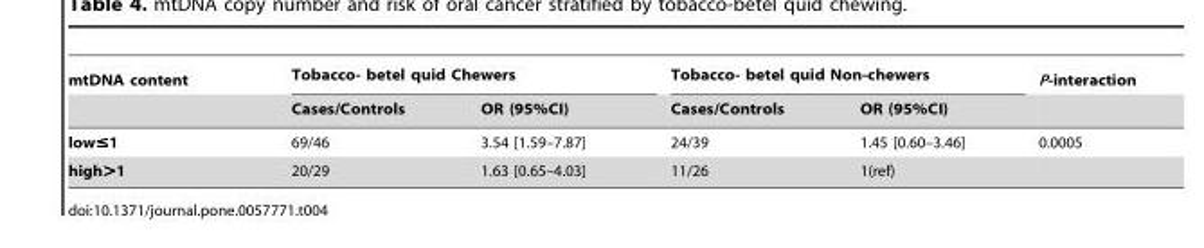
<table><thead><tr><td rowspan="2">mtDNA content</td><td colspan="2">Tobacco- betel quid Chewers</td><td colspan="2">Tobacco- betel quid Non-chewers</td><td rowspan="2">P-interaction</td></tr><tr><td>Cases/Controls</td><td>OR (95%CI)</td><td>Cases/Controls</td><td>OR (95%CI)</td></tr></thead><tbody><tr><td>low≤1</td><td>69/46</td><td>3.54 [1.59–7.87]</td><td>24/39</td><td>1.45 [0.60–3.46]</td><td>0.0005</td></tr><tr><td>high&gt;1</td><td>20/29</td><td>1.63 [0.65–4.03]</td><td>11/26</td><td>1(ref)</td><td></td></tr></tbody></table>